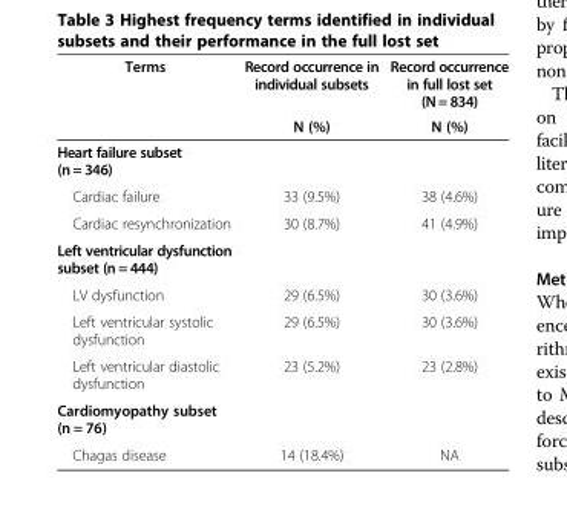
<table><thead><tr><td rowspan="2">Terms</td><td rowspan="2">Record occurrence in individual subsets N (%)</td><td rowspan="2">Record occurrence in full lost set (N = 834) N (%)</td></tr><tr></tr></thead><tbody><tr><td colspan="3">Heart failure subset (n = 346)</td></tr><tr><td>Cardiac failure</td><td>33 (9.5%)</td><td>38 (4.6%)</td></tr><tr><td>Cardiac resynchronization</td><td>30 (8.7%)</td><td>41 (4.9%)</td></tr><tr><td colspan="3">Left ventricular dysfunction subset (n = 444)</td></tr><tr><td>LV dysfunction</td><td>29 (6.5%)</td><td>30 (3.6%)</td></tr><tr><td>Left ventricular systolic dysfunction</td><td>29 (6.5%)</td><td>30 (3.6%)</td></tr><tr><td>Left ventricular diastolic dysfunction</td><td>23 (5.2%)</td><td>23 (2.8%)</td></tr><tr><td colspan="3">Cardiomyopathy subset (n = 76)</td></tr><tr><td>Chagas disease</td><td>14 (18.4%)</td><td>NA</td></tr></tbody></table>